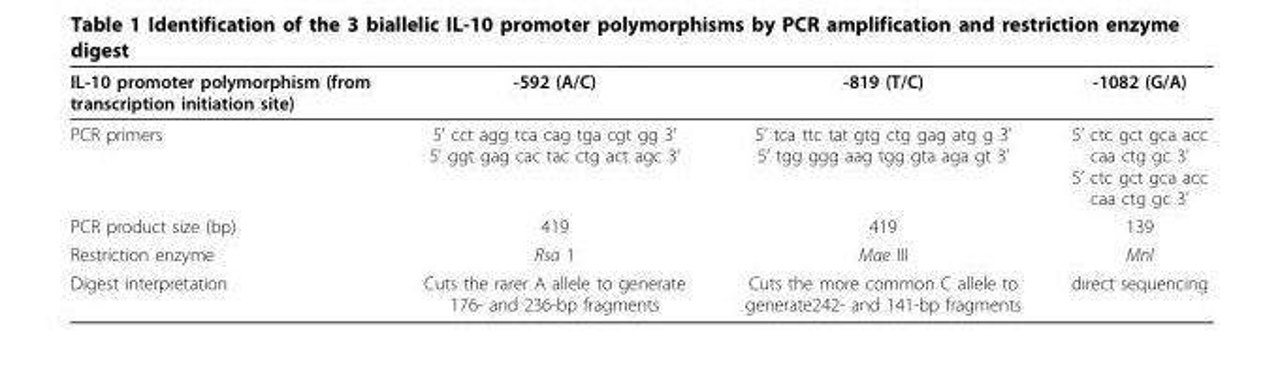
<table><thead><tr><td>IL-10 promoter polymorphism (from transcription initiation site)</td><td>-592 (A/C)</td><td>-819 (T/C)</td><td>-1082 (G/A)</td></tr></thead><tbody><tr><td>PCR primers</td><td>5’ cct agg tca cag tga cgt gg 3’ 5’ ggt gag cac tac ctg act agc 3’</td><td>5’ tca ttc tat gtg ctg gag atg g 3’ 5’ tgg ggg aag tgg gta aga gt 3’</td><td>5’ ctc gct gca acc caa ctg gc 3’ 5’ ctc gct gca acc caa ctg gc 3’</td></tr><tr><td>PCR product size (bp)</td><td>419</td><td>419</td><td>139</td></tr><tr><td>Restriction enzyme</td><td>Rsa 1</td><td>Mae III</td><td>Mnl</td></tr><tr><td>Digest interpretation</td><td>Cuts the rarer A allele to generate 176- and 236-bp fragments</td><td>Cuts the more common C allele to generate242- and 141-bp fragments</td><td>direct sequencing</td></tr></tbody></table>